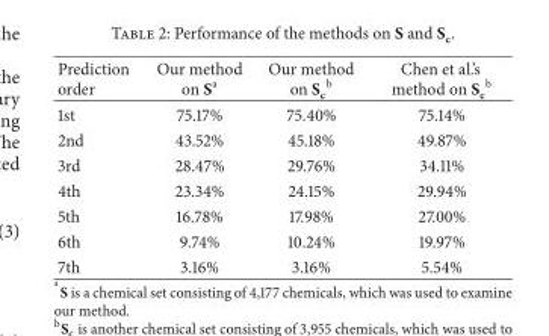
<table><thead><tr><td>Prediction order</td><td>Our method on S<sup>a</sup></td><td>Our method on S<sub>c</sub> <sup>b</sup></td><td>Chen et al.’s method on S<sub>c</sub> <sup>b</sup></td></tr></thead><tbody><tr><td>1st</td><td>75.17%</td><td>75.40%</td><td>75.14%</td></tr><tr><td>2nd</td><td>43.52%</td><td>45.18%</td><td>49.87%</td></tr><tr><td>3rd</td><td>28.47%</td><td>29.76%</td><td>34.11%</td></tr><tr><td>4th</td><td>23.34%</td><td>24.15%</td><td>29.94%</td></tr><tr><td>5th</td><td>16.78%</td><td>17.98%</td><td>27.00%</td></tr><tr><td>6th</td><td>9.74%</td><td>10.24%</td><td>19.97%</td></tr><tr><td>7th</td><td>3.16%</td><td>3.16%</td><td>5.54%</td></tr></tbody></table>